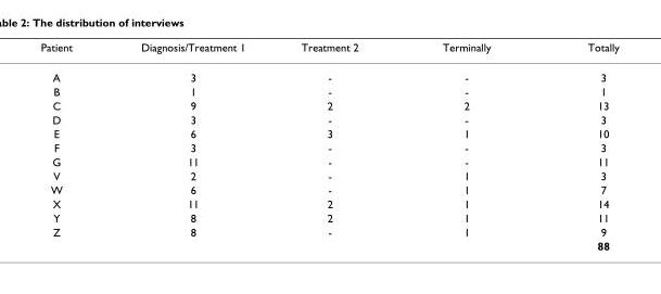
<table><thead><tr><td>Patient</td><td>Diagnosis/Treatment 1</td><td>Treatment 2</td><td>Terminally</td><td>Totally</td></tr></thead><tbody><tr><td>A</td><td>3</td><td>-</td><td>-</td><td>3</td></tr><tr><td>B</td><td>1</td><td>-</td><td>-</td><td>1</td></tr><tr><td>C</td><td>9</td><td>2</td><td>2</td><td>13</td></tr><tr><td>D</td><td>3</td><td>-</td><td>-</td><td>3</td></tr><tr><td>E</td><td>6</td><td>3</td><td>1</td><td>10</td></tr><tr><td>F</td><td>3</td><td>-</td><td>-</td><td>3</td></tr><tr><td>G</td><td>11</td><td>-</td><td>-</td><td>11</td></tr><tr><td>V</td><td>2</td><td>-</td><td>1</td><td>3</td></tr><tr><td>W</td><td>6</td><td>-</td><td>1</td><td>7</td></tr><tr><td>X</td><td>11</td><td>2</td><td>1</td><td>14</td></tr><tr><td>Y</td><td>8</td><td>2</td><td>1</td><td>11</td></tr><tr><td rowspan="2">Z</td><td>8</td><td>-</td><td>1</td><td>9</td></tr><tr><td></td><td></td><td></td><td>88</td></tr></tbody></table>